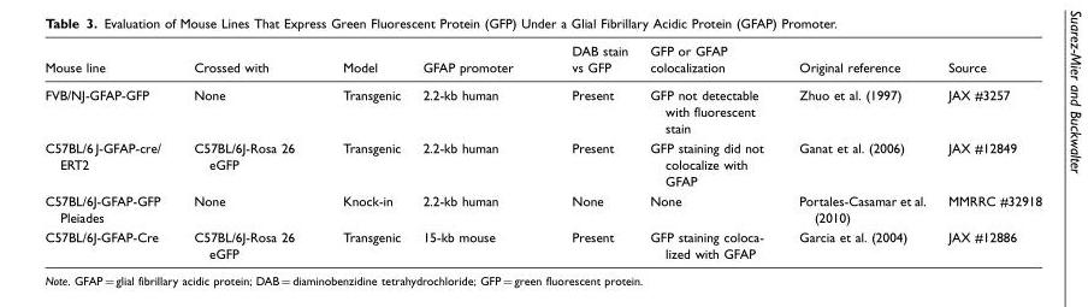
<table><thead><tr><td>Mouse line</td><td>Crossed with</td><td>Model</td><td>GFAP promoter</td><td>DAB stain vs GFP</td><td>GFP or GFAP colocalization</td><td>Original reference</td><td>Source</td></tr></thead><tbody><tr><td>FVB/NJ-GFAP-GFP</td><td>None</td><td>Transgenic</td><td>2.2-kb human</td><td>Present</td><td>GFP not detectable with fluorescent stain</td><td>Zhuo et al. (1997)</td><td>JAX #3257</td></tr><tr><td>C57BL/6 J-GFAP-cre/ ERT2</td><td>C57BL/6J-Rosa 26 eGFP</td><td>Transgenic</td><td>2.2-kb human</td><td>Present</td><td>GFP staining did not colocalize with GFAP</td><td>Ganat et al. (2006)</td><td>JAX #12849</td></tr><tr><td>C57BL/6J-GFAP-GFP Pleiades</td><td>None</td><td>Knock-in</td><td>2.2-kb human</td><td>None</td><td>None</td><td>Portales-Casamar et al. (2010)</td><td>MMRRC #32918</td></tr><tr><td>C57BL/6J-GFAP-Cre</td><td>C57BL/6J-Rosa 26 eGFP</td><td>Transgenic</td><td>15-kb mouse</td><td>Present</td><td>GFP staining coloca- lized with GFAP</td><td>Garcia et al. (2004)</td><td>JAX #12886</td></tr></tbody></table>